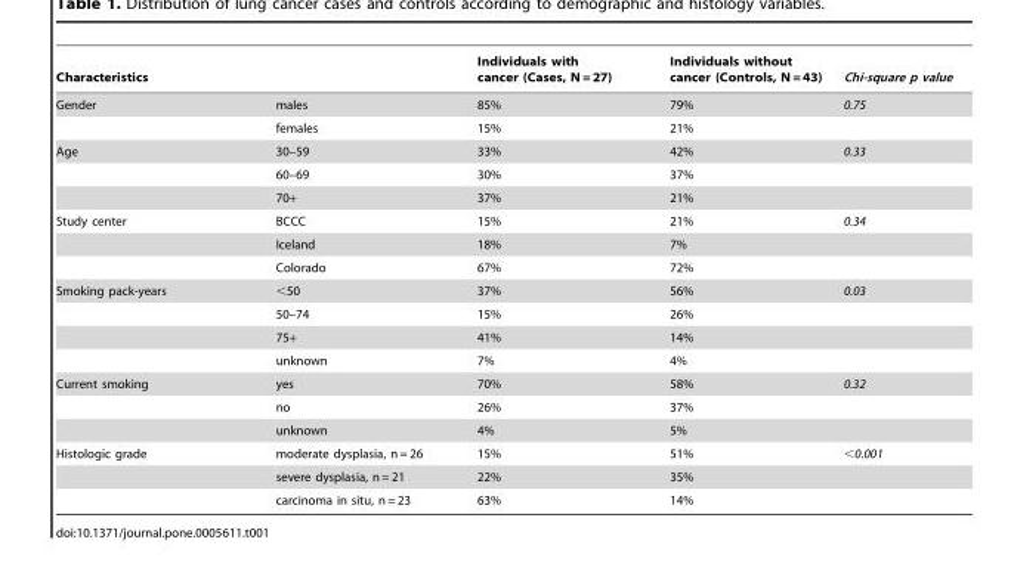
<table><thead><tr><td colspan="2">Characteristics</td><td rowspan="2">Individuals with cancer (Cases, N = 27) 85%</td><td rowspan="2">Individuals without cancer (Controls, N = 43) 79%</td><td rowspan="2">Chi-square p value 0.75</td></tr><tr><td>Gender</td><td>males</td></tr></thead><tbody><tr><td></td><td>females</td><td>15%</td><td>21%</td><td></td></tr><tr><td rowspan="3">Age</td><td>30–59</td><td>33%</td><td>42%</td><td>0.33</td></tr><tr><td>60–69</td><td>30%</td><td>37%</td><td></td></tr><tr><td>70+</td><td>37%</td><td>21%</td><td></td></tr><tr><td rowspan="3">Study center</td><td>BCCC</td><td>15%</td><td>21%</td><td>0.34</td></tr><tr><td>Iceland</td><td>18%</td><td>7%</td><td></td></tr><tr><td>Colorado</td><td>67%</td><td>72%</td><td></td></tr><tr><td rowspan="4">Smoking pack-years</td><td>&lt;50</td><td>37%</td><td>56%</td><td>0.03</td></tr><tr><td>50–74</td><td>15%</td><td>26%</td><td></td></tr><tr><td>75+</td><td>41%</td><td>14%</td><td></td></tr><tr><td>unknown</td><td>7%</td><td>4%</td><td></td></tr><tr><td rowspan="3">Current smoking</td><td>yes</td><td>70%</td><td>58%</td><td>0.32</td></tr><tr><td>no</td><td>26%</td><td>37%</td><td></td></tr><tr><td>unknown</td><td>4%</td><td>5%</td><td></td></tr><tr><td rowspan="3">Histologic grade</td><td>moderate dysplasia, n = 26</td><td>15%</td><td>51%</td><td>&lt;0.001</td></tr><tr><td>severe dysplasia, n = 21</td><td>22%</td><td>35%</td><td></td></tr><tr><td>carcinoma in situ, n = 23</td><td>63%</td><td>14%</td><td></td></tr></tbody></table>